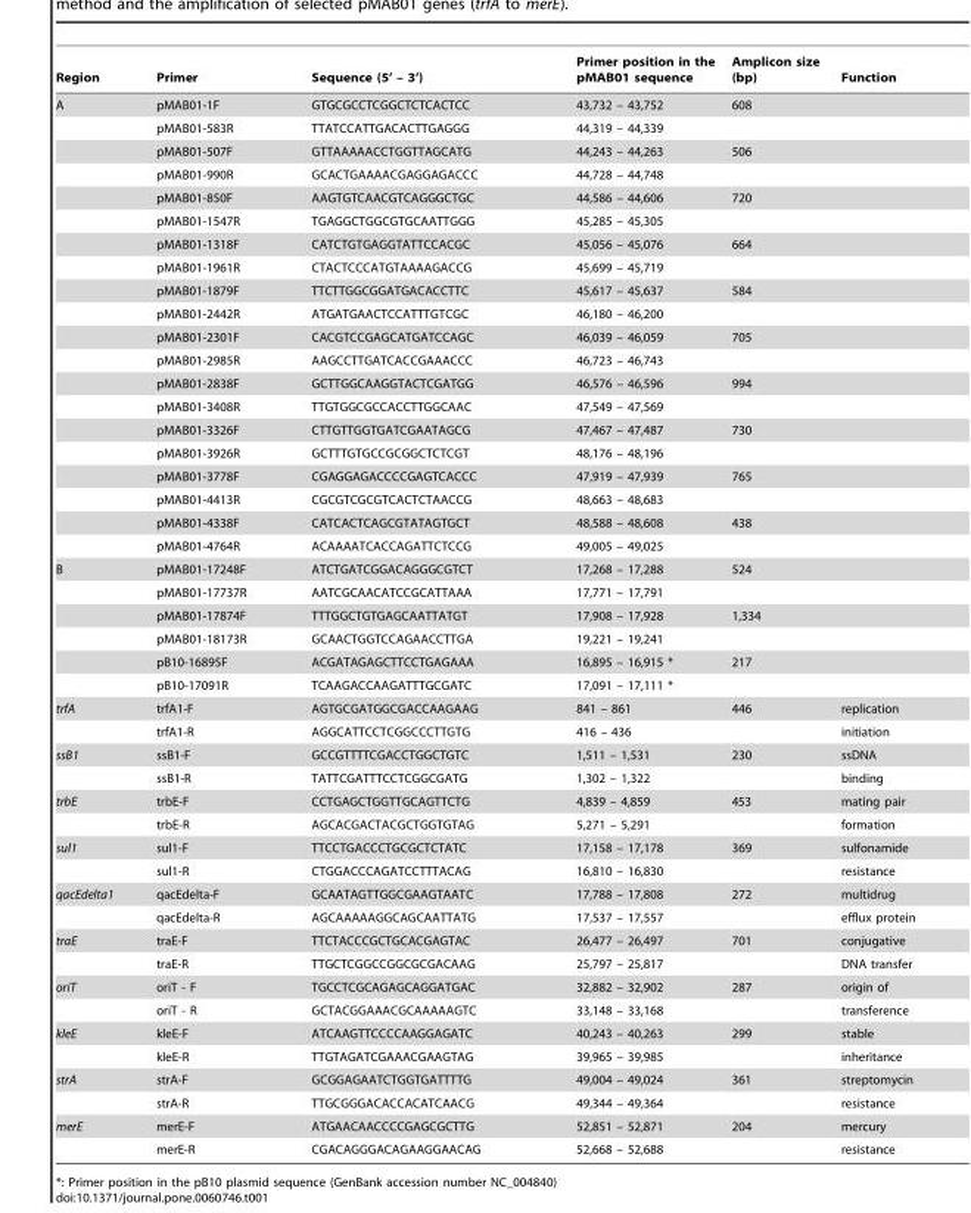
<table><thead><tr><td>Region</td><td>Primer</td><td>Sequence (5’ – 3’)</td><td>Primer position in the pMAB01 sequence</td><td>Amplicon size (bp)</td><td>Function</td></tr></thead><tbody><tr><td rowspan="20">A</td><td>pMAB01-1F</td><td>GTGCGCCTCGGCTCTCACTCC</td><td>43,732 – 43,752</td><td>608</td><td></td></tr><tr><td>pMAB01-583R</td><td>TTATCCATTGACACTTGAGGG</td><td>44,319 – 44,339</td><td></td><td></td></tr><tr><td>pMAB01-507F</td><td>GTTAAAAACCTGGTTAGCATG</td><td>44,243 – 44,263</td><td>506</td><td></td></tr><tr><td>pMAB01-990R</td><td>GCACTGAAAACGAGGAGACCC</td><td>44,728 – 44,748</td><td></td><td></td></tr><tr><td>pMAB01-850F</td><td>AAGTGTCAACGTCAGGGCTGC</td><td>44,586 – 44,606</td><td>720</td><td></td></tr><tr><td>pMAB01-1547R</td><td>TGAGGCTGGCGTGCAATTGGG</td><td>45,285 – 45,305</td><td></td><td></td></tr><tr><td>pMAB01-1318F</td><td>CATCTGTGAGGTATTCCACGC</td><td>45,056 – 45,076</td><td>664</td><td></td></tr><tr><td>pMAB01-1961R</td><td>CTACTCCCATGTAAAAGACCG</td><td>45,699 – 45,719</td><td></td><td></td></tr><tr><td>pMAB01-1879F</td><td>TTCTTGGCGGATGACACCTTC</td><td>45,617 – 45,637</td><td>584</td><td></td></tr><tr><td>pMAB01-2442R</td><td>ATGATGAACTCCATTTGTCGC</td><td>46,180 – 46,200</td><td></td><td></td></tr><tr><td>pMAB01-2301F</td><td>CACGTCCGAGCATGATCCAGC</td><td>46,039 – 46,059</td><td>705</td><td></td></tr><tr><td>pMAB01-2985R</td><td>AAGCCTTGATCACCGAAACCC</td><td>46,723 – 46,743</td><td></td><td></td></tr><tr><td>pMAB01-2838F</td><td>GCTTGGCAAGGTACTCGATGG</td><td>46,576 – 46,596</td><td>994</td><td></td></tr><tr><td>pMAB01-3408R</td><td>TTGTGGCGCCACCTTGGCAAC</td><td>47,549 – 47,569</td><td></td><td></td></tr><tr><td>pMAB01-3326F</td><td>CTTGTTGGTGATCGAATAGCG</td><td>47,467 – 47,487</td><td>730</td><td></td></tr><tr><td>pMAB01-3926R</td><td>GCTTTGTGCCGCGGCTCTCGT</td><td>48,176 – 48,196</td><td></td><td></td></tr><tr><td>pMAB01-3778F</td><td>CGAGGAGACCCCGAGTCACCC</td><td>47,919 – 47,939</td><td>765</td><td></td></tr><tr><td>pMAB01-4413R</td><td>CGCGTCGCGTCACTCTAACCG</td><td>48,663 – 48,683</td><td></td><td></td></tr><tr><td>pMAB01-4338F</td><td>CATCACTCAGCGTATAGTGCT</td><td>48,588 – 48,608</td><td>438</td><td></td></tr><tr><td>pMAB01-4764R</td><td>ACAAAATCACCAGATTCTCCG</td><td>49,005 – 49,025</td><td></td><td></td></tr><tr><td rowspan="6">B</td><td>pMAB01-17248F</td><td>ATCTGATCGGACAGGGCGTCT</td><td>17,268 – 17,288</td><td>524</td><td></td></tr><tr><td>pMAB01-17737R</td><td>AATCGCAACATCCGCATTAAA</td><td>17,771 – 17,791</td><td></td><td></td></tr><tr><td>pMAB01-17874F</td><td>TTTGGCTGTGAGCAATTATGT</td><td>17,908 – 17,928</td><td>1,334</td><td></td></tr><tr><td>pMAB01-18173R</td><td>GCAACTGGTCCAGAACCTTGA</td><td>19,221 – 19,241</td><td></td><td></td></tr><tr><td>pB10-16895F</td><td>ACGATAGAGCTTCCTGAGAAA</td><td>16,895 – 16,915 *</td><td>217</td><td></td></tr><tr><td>pB10-17091R</td><td>TCAAGACCAAGATTTGCGATC</td><td>17,091 – 17,111 *</td><td></td><td></td></tr><tr><td rowspan="2">trfA</td><td>trfA1-F</td><td>AGTGCGATGGCGACCAAGAAG</td><td>841 – 861</td><td>446</td><td>replication</td></tr><tr><td>trfA1-R</td><td>AGGCATTCCTCGGCCCTTGTG</td><td>416 – 436</td><td></td><td>initiation</td></tr><tr><td rowspan="2">ssB1</td><td>ssB1-F</td><td>GCCGTTTTCGACCTGGCTGTC</td><td>1,511 – 1,531</td><td>230</td><td>ssDNA</td></tr><tr><td>ssB1-R</td><td>TATTCGATTTCCTCGGCGATG</td><td>1,302 – 1,322</td><td></td><td>binding</td></tr><tr><td rowspan="2">trbE</td><td>trbE-F</td><td>CCTGAGCTGGTTGCAGTTCTG</td><td>4,839 – 4,859</td><td>453</td><td>mating pair</td></tr><tr><td>trbE-R</td><td>AGCACGACTACGCTGGTGTAG</td><td>5,271 – 5,291</td><td></td><td>formation</td></tr><tr><td rowspan="2">sul1</td><td>sul1-F</td><td>TTCCTGACCCTGCGCTCTATC</td><td>17,158 – 17,178</td><td>369</td><td>sulfonamide</td></tr><tr><td>sul1-R</td><td>CTGGACCCAGATCCTTTACAG</td><td>16,810 – 16,830</td><td></td><td>resistance</td></tr><tr><td rowspan="2">qacEdelta1</td><td>qacEdelta-F</td><td>GCAATAGTTGGCGAAGTAATC</td><td>17,788 – 17,808</td><td>272</td><td>multidrug</td></tr><tr><td>qacEdelta-R</td><td>AGCAAAAAGGCAGCAATTATG</td><td>17,537 – 17,557</td><td></td><td>efflux protein</td></tr><tr><td rowspan="2">traE</td><td>traE-F</td><td>TTCTACCCGCTGCACGAGTAC</td><td>26,477 – 26,497</td><td>701</td><td>conjugative</td></tr><tr><td>traE-R</td><td>TTGCTCGGCCGGCGCGACAAG</td><td>25,797 – 25,817</td><td></td><td>DNA transfer</td></tr><tr><td rowspan="2">oriT</td><td>oriT - F</td><td>TGCCTCGCAGAGCAGGATGAC</td><td>32,882 – 32,902</td><td>287</td><td>origin of</td></tr><tr><td>oriT - R</td><td>GCTACGGAAACGCAAAAAGTC</td><td>33,148 – 33,168</td><td></td><td>transference</td></tr><tr><td rowspan="2">kleE</td><td>kleE-F</td><td>ATCAAGTTCCCCAAGGAGATC</td><td>40,243 – 40,263</td><td>299</td><td>stable</td></tr><tr><td>kleE-R</td><td>TTGTAGATCGAAACGAAGTAG</td><td>39,965 – 39,985</td><td></td><td>inheritance</td></tr><tr><td rowspan="2">strA</td><td>strA-F</td><td>GCGGAGAATCTGGTGATTTTG</td><td>49,004 – 49,024</td><td>361</td><td>streptomycin</td></tr><tr><td>strA-R</td><td>TTGCGGGACACCACATCAACG</td><td>49,344 – 49,364</td><td></td><td>resistance</td></tr><tr><td rowspan="2">merE</td><td>merE-F</td><td>ATGAACAACCCCGAGCGCTTG</td><td>52,851 – 52,871</td><td>204</td><td>mercury</td></tr><tr><td>merE-R</td><td>CGACAGGGACAGAAGGAACAG</td><td>52,668 – 52,688</td><td></td><td>resistance</td></tr></tbody></table>